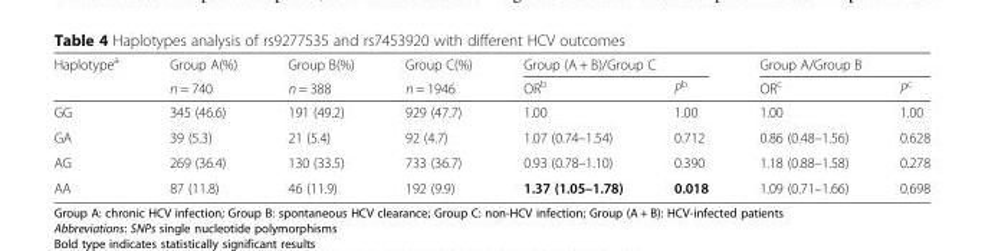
<table><thead><tr><td rowspan="2">Haplotype<sup>a</sup></td><td rowspan="2">Group A(%) n = 740</td><td rowspan="2">Group B(%) n = 388</td><td rowspan="2">Group C(%) n = 1946</td><td colspan="2">Group (A + B)/Group C</td><td colspan="2">Group A/Group B</td></tr><tr><td>OR<sup>b</sup></td><td>P<sup>b</sup></td><td>OR<sup>c</sup></td><td>P<sup>c</sup></td></tr></thead><tbody><tr><td>GG</td><td>345 (46.6)</td><td>191 (49.2)</td><td>929 (47.7)</td><td>1.00</td><td>1.00</td><td>1.00</td><td>1.00</td></tr><tr><td>GA</td><td>39 (5.3)</td><td>21 (5.4)</td><td>92 (4.7)</td><td>1.07 (0.74–1.54)</td><td>0.712</td><td>0.86 (0.48–1.56)</td><td>0.628</td></tr><tr><td>AG</td><td>269 (36.4)</td><td>130 (33.5)</td><td>733 (36.7)</td><td>0.93 (0.78–1.10)</td><td>0.390</td><td>1.18 (0.88–1.58)</td><td>0.278</td></tr><tr><td>AA</td><td>87 (11.8)</td><td>46 (11.9)</td><td>192 (9.9)</td><td>1.37 (1.05–1.78)</td><td>0.018</td><td>1.09 (0.71–1.66)</td><td>0.698</td></tr></tbody></table>